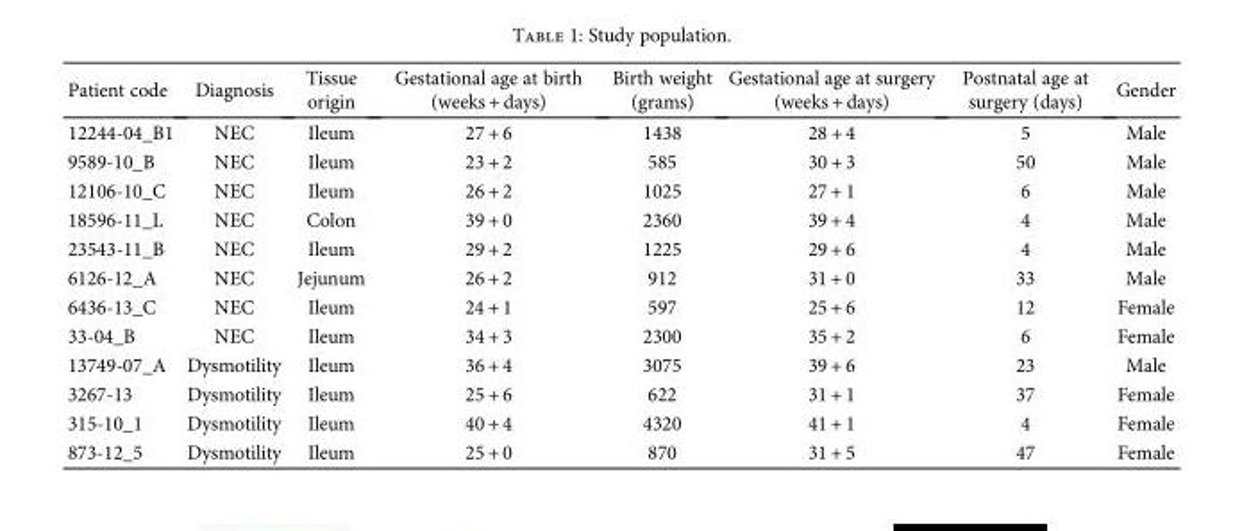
<table><thead><tr><td>Patient code</td><td>Diagnosis</td><td>Tissue origin</td><td>Gestational age at birth (weeks + days)</td><td>Birth weight (grams)</td><td>Gestational age at surgery (weeks + days)</td><td>Postnatal age at surgery (days)</td><td>Gender</td></tr></thead><tbody><tr><td>12244-04_B1</td><td>NEC</td><td>Ileum</td><td>27 + 6</td><td>1438</td><td>28 + 4</td><td>5</td><td>Male</td></tr><tr><td>9589-10_B</td><td>NEC</td><td>Ileum</td><td>23 + 2</td><td>585</td><td>30 + 3</td><td>50</td><td>Male</td></tr><tr><td>12106-10_C</td><td>NEC</td><td>Ileum</td><td>26 + 2</td><td>1025</td><td>27 + 1</td><td>6</td><td>Male</td></tr><tr><td>18596-11_L</td><td>NEC</td><td>Colon</td><td>39 + 0</td><td>2360</td><td>39 + 4</td><td>4</td><td>Male</td></tr><tr><td>23543-11_B</td><td>NEC</td><td>Ileum</td><td>29 + 2</td><td>1225</td><td>29 + 6</td><td>4</td><td>Male</td></tr><tr><td>6126-12_A</td><td>NEC</td><td>Jejunum</td><td>26 + 2</td><td>912</td><td>31 + 0</td><td>33</td><td>Male</td></tr><tr><td>6436-13_C</td><td>NEC</td><td>Ileum</td><td>24 + 1</td><td>597</td><td>25 + 6</td><td>12</td><td>Female</td></tr><tr><td>33-04_B</td><td>NEC</td><td>Ileum</td><td>34 + 3</td><td>2300</td><td>35 + 2</td><td>6</td><td>Female</td></tr><tr><td>13749-07_A</td><td>Dysmotility</td><td>Ileum</td><td>36 + 4</td><td>3075</td><td>39 + 6</td><td>23</td><td>Male</td></tr><tr><td>3267-13</td><td>Dysmotility</td><td>Ileum</td><td>25 + 6</td><td>622</td><td>31 + 1</td><td>37</td><td>Female</td></tr><tr><td>315-10_1</td><td>Dysmotility</td><td>Ileum</td><td>40 + 4</td><td>4320</td><td>41 + 1</td><td>4</td><td>Female</td></tr><tr><td>873-12_5</td><td>Dysmotility</td><td>Ileum</td><td>25 + 0</td><td>870</td><td>31 + 5</td><td>47</td><td>Female</td></tr></tbody></table>